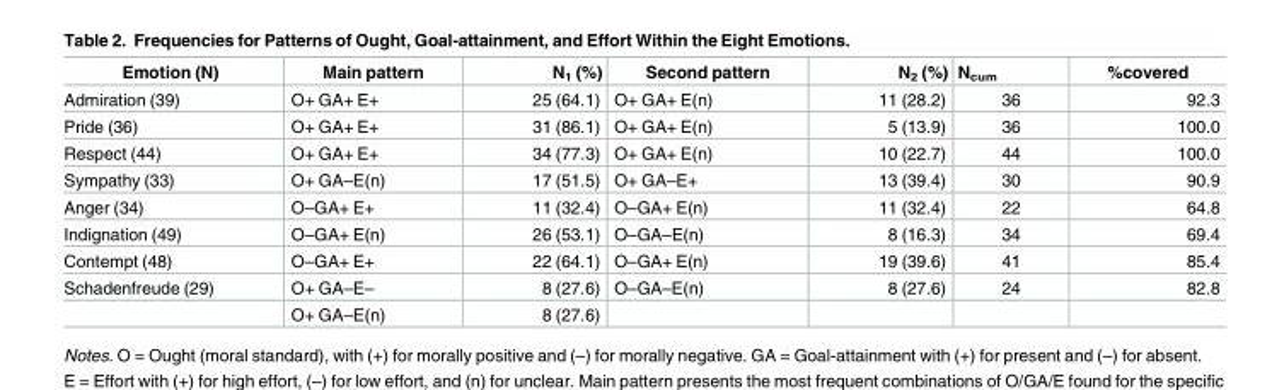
<table><thead><tr><td>Emotion (N)</td><td>Main pattern</td><td>N<sub>1</sub> (%)</td><td>Second pattern</td><td>N<sub>2</sub> (%)</td><td>N<sub>cum</sub></td><td>%covered</td></tr></thead><tbody><tr><td>Admiration (39)</td><td>O+ GA+ E+</td><td>25 (64.1)</td><td>O+ GA+ E(n)</td><td>11 (28.2)</td><td>36</td><td>92.3</td></tr><tr><td>Pride (36)</td><td>O+ GA+ E+</td><td>31 (86.1)</td><td>O+ GA+ E(n)</td><td>5 (13.9)</td><td>36</td><td>100.0</td></tr><tr><td>Respect (44)</td><td>O+ GA+ E+</td><td>34 (77.3)</td><td>O+ GA+ E(n)</td><td>10 (22.7)</td><td>44</td><td>100.0</td></tr><tr><td>Sympathy (33)</td><td>O+ GA–E(n)</td><td>17 (51.5)</td><td>O+ GA–E+</td><td>13 (39.4)</td><td>30</td><td>90.9</td></tr><tr><td>Anger (34)</td><td>O–GA+ E+</td><td>11 (32.4)</td><td>O–GA+ E(n)</td><td>11 (32.4)</td><td>22</td><td>64.8</td></tr><tr><td>Indignation (49)</td><td>O–GA+ E(n)</td><td>26 (53.1)</td><td>O–GA–E(n)</td><td>8 (16.3)</td><td>34</td><td>69.4</td></tr><tr><td>Contempt (48)</td><td>O–GA+ E+</td><td>22 (64.1)</td><td>O–GA+ E(n)</td><td>19 (39.6)</td><td>41</td><td>85.4</td></tr><tr><td rowspan="2">Schadenfreude (29)</td><td>O+ GA–E–</td><td>8 (27.6)</td><td>O–GA–E(n)</td><td>8 (27.6)</td><td>24</td><td>82.8</td></tr><tr><td>O+ GA–E(n)</td><td>8 (27.6)</td><td></td><td></td><td></td><td></td></tr></tbody></table>